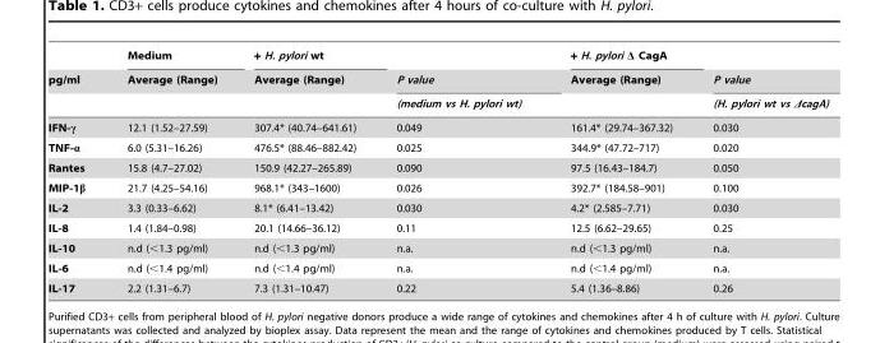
<table><thead><tr><td rowspan="3">pg/ml</td><td rowspan="3">Medium Average (Range)</td><td rowspan="3">+ H. pylori wt Average (Range)</td><td rowspan="3">P value (medium vs H. pylori wt)</td><td rowspan="3">+ H. pylori Δ CagA Average (Range)</td><td rowspan="3">P value (H. pylori wt vs ΔcagA)</td></tr><tr></tr><tr></tr></thead><tbody><tr><td>IFN-γ</td><td>12.1 (1.52–27.59)</td><td>307.4* (40.74–641.61)</td><td>0.049</td><td>161.4* (29.74–367.32)</td><td>0.030</td></tr><tr><td>TNF-α</td><td>6.0 (5.31–16.26)</td><td>476.5* (88.46–882.42)</td><td>0.025</td><td>344.9* (47.72–717)</td><td>0.020</td></tr><tr><td>Rantes</td><td>15.8 (4.7–27.02)</td><td>150.9 (42.27–265.89)</td><td>0.090</td><td>97.5 (16.43–184.7)</td><td>0.050</td></tr><tr><td>MIP-1β</td><td>21.7 (4.25–54.16)</td><td>968.1* (343–1600)</td><td>0.026</td><td>392.7* (184.58–901)</td><td>0.100</td></tr><tr><td>IL-2</td><td>3.3 (0.33–6.62)</td><td>8.1* (6.41–13.42)</td><td>0.030</td><td>4.2* (2.585–7.71)</td><td>0.030</td></tr><tr><td>IL-8</td><td>1.4 (1.84–0.98)</td><td>20.1 (14.66–36.12)</td><td>0.11</td><td>12.5 (6.62–29.65)</td><td>0.25</td></tr><tr><td>IL-10</td><td>n.d (&lt;1.3 pg/ml)</td><td>n.d (&lt;1.3 pg/ml)</td><td>n.a.</td><td>n.d (&lt;1.3 pg/ml)</td><td>n.a.</td></tr><tr><td>IL-6</td><td>n.d (&lt;1.4 pg/ml)</td><td>n.d (&lt;1.4 pg/ml)</td><td>n.a.</td><td>n.d (&lt;1.4 pg/ml)</td><td>n.a.</td></tr><tr><td>IL-17</td><td>2.2 (1.31–6.7)</td><td>7.3 (1.31–10.47)</td><td>0.22</td><td>5.4 (1.36–8.86)</td><td>0.26</td></tr></tbody></table>